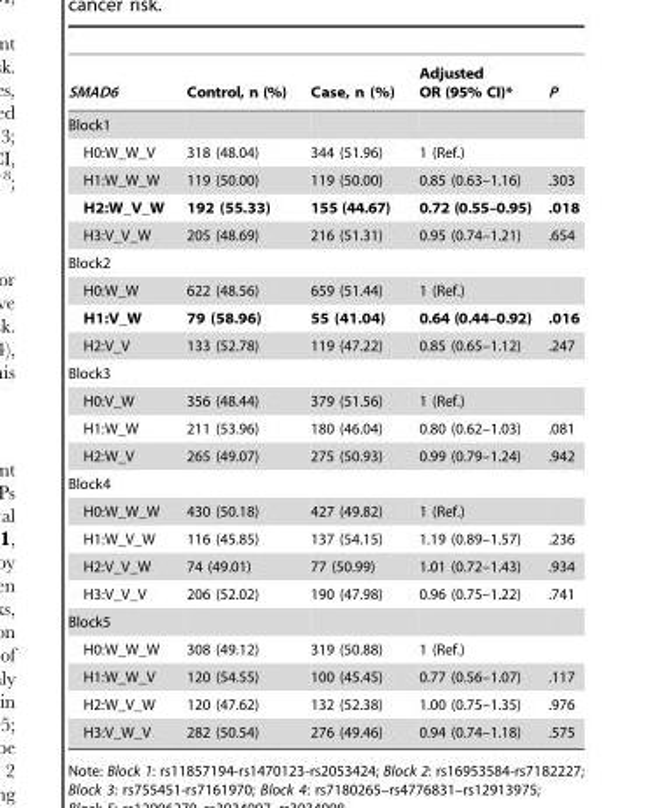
<table><thead><tr><td>SMAD6</td><td>Control, n (%)</td><td>Case, n (%)</td><td>Adjusted OR (95% CI)*</td><td>P</td></tr></thead><tbody><tr><td colspan="5">Block1</td></tr><tr><td>H0:W_W_V</td><td>318 (48.04)</td><td>344 (51.96)</td><td>1 (Ref.)</td><td></td></tr><tr><td>H1:W_W_W</td><td>119 (50.00)</td><td>119 (50.00)</td><td>0.85 (0.63–1.16)</td><td>.303</td></tr><tr><td>H2:W_V_W</td><td>192 (55.33)</td><td>155 (44.67)</td><td>0.72 (0.55–0.95)</td><td>.018</td></tr><tr><td>H3:V_V_W</td><td>205 (48.69)</td><td>216 (51.31)</td><td>0.95 (0.74–1.21)</td><td>.654</td></tr><tr><td colspan="5">Block2</td></tr><tr><td>H0:W_W</td><td>622 (48.56)</td><td>659 (51.44)</td><td>1 (Ref.)</td><td></td></tr><tr><td>H1:V_W</td><td>79 (58.96)</td><td>55 (41.04)</td><td>0.64 (0.44–0.92)</td><td>.016</td></tr><tr><td>H2:V_V</td><td>133 (52.78)</td><td>119 (47.22)</td><td>0.85 (0.65–1.12)</td><td>.247</td></tr><tr><td colspan="5">Block3</td></tr><tr><td>H0:V_W</td><td>356 (48.44)</td><td>379 (51.56)</td><td>1 (Ref.)</td><td></td></tr><tr><td>H1:W_W</td><td>211 (53.96)</td><td>180 (46.04)</td><td>0.80 (0.62–1.03)</td><td>.081</td></tr><tr><td>H2:W_V</td><td>265 (49.07)</td><td>275 (50.93)</td><td>0.99 (0.79–1.24)</td><td>.942</td></tr><tr><td colspan="5">Block4</td></tr><tr><td>H0:W_W_W</td><td>430 (50.18)</td><td>427 (49.82)</td><td>1 (Ref.)</td><td></td></tr><tr><td>H1:W_V_W</td><td>116 (45.85)</td><td>137 (54.15)</td><td>1.19 (0.89–1.57)</td><td>.236</td></tr><tr><td>H2:V_V_W</td><td>74 (49.01)</td><td>77 (50.99)</td><td>1.01 (0.72–1.43)</td><td>.934</td></tr><tr><td>H3:V_V_V</td><td>206 (52.02)</td><td>190 (47.98)</td><td>0.96 (0.75–1.22)</td><td>.741</td></tr><tr><td colspan="5">Block5</td></tr><tr><td>H0:W_W_W</td><td>308 (49.12)</td><td>319 (50.88)</td><td>1 (Ref.)</td><td></td></tr><tr><td>H1:W_W_V</td><td>120 (54.55)</td><td>100 (45.45)</td><td>0.77 (0.56–1.07)</td><td>.117</td></tr><tr><td>H2:W_V_W</td><td>120 (47.62)</td><td>132 (52.38)</td><td>1.00 (0.75–1.35)</td><td>.976</td></tr><tr><td>H3:V_W_V</td><td>282 (50.54)</td><td>276 (49.46)</td><td>0.94 (0.74–1.18)</td><td>.575</td></tr></tbody></table>